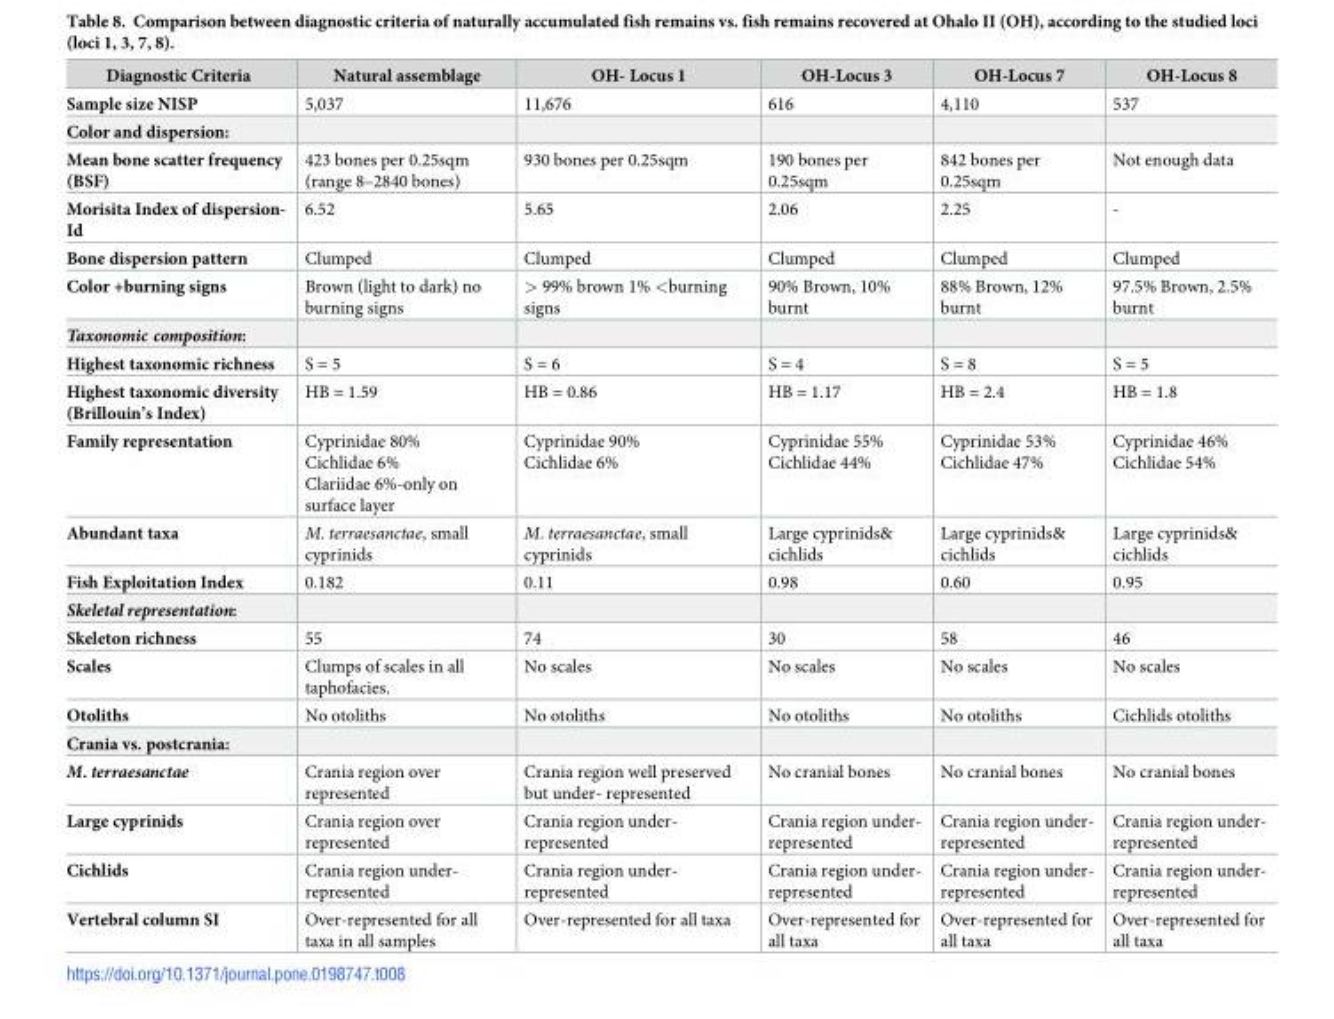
<table><thead><tr><td>Diagnostic Criteria</td><td>Natural assemblage</td><td>OH- Locus 1</td><td>OH-Locus 3</td><td>OH-Locus 7</td><td>OH-Locus 8</td></tr></thead><tbody><tr><td>Sample size NISP</td><td>5,037</td><td>11,676</td><td>616</td><td>4,110</td><td>537</td></tr><tr><td colspan="6">Color and dispersion:</td></tr><tr><td>Mean bone scatter frequency (BSF)</td><td>423 bones per 0.25sqm (range 8–2840 bones)</td><td>930 bones per 0.25sqm</td><td>190 bones per 0.25sqm</td><td>842 bones per 0.25sqm</td><td>Not enough data</td></tr><tr><td>Morisita Index of dispersion- Id</td><td>6.52</td><td>5.65</td><td>2.06</td><td>2.25</td><td>-</td></tr><tr><td>Bone dispersion pattern</td><td>Clumped</td><td>Clumped</td><td>Clumped</td><td>Clumped</td><td>Clumped</td></tr><tr><td>Color +burning signs</td><td>Brown (light to dark) no burning signs</td><td>&gt; 99% brown 1% &lt;burning signs</td><td>90% Brown, 10% burnt</td><td>88% Brown, 12% burnt</td><td>97.5% Brown, 2.5% burnt</td></tr><tr><td colspan="6">Taxonomic composition:</td></tr><tr><td>Highest taxonomic richness</td><td>S = 5</td><td>S = 6</td><td>S = 4</td><td>S = 8</td><td>S = 5</td></tr><tr><td>Highest taxonomic diversity (Brillouin’s Index)</td><td>HB = 1.59</td><td>HB = 0.86</td><td>HB = 1.17</td><td>HB = 2.4</td><td>HB = 1.8</td></tr><tr><td>Family representation</td><td>Cyprinidae 80% Cichlidae 6% Clariidae 6%-only on surface layer</td><td>Cyprinidae 90% Cichlidae 6%</td><td>Cyprinidae 55% Cichlidae 44%</td><td>Cyprinidae 53% Cichlidae 47%</td><td>Cyprinidae 46% Cichlidae 54%</td></tr><tr><td>Abundant taxa</td><td>M. terraesanctae, small cyprinids</td><td>M. terraesanctae, small cyprinids</td><td>Large cyprinids&amp; cichlids</td><td>Large cyprinids&amp; cichlids</td><td>Large cyprinids&amp; cichlids</td></tr><tr><td>Fish Exploitation Index</td><td>0.182</td><td>0.11</td><td>0.98</td><td>0.60</td><td>0.95</td></tr><tr><td colspan="6">Skeletal representation:</td></tr><tr><td>Skeleton richness</td><td>55</td><td>74</td><td>30</td><td>58</td><td>46</td></tr><tr><td>Scales</td><td>Clumps of scales in all taphofacies.</td><td>No scales</td><td>No scales</td><td>No scales</td><td>No scales</td></tr><tr><td>Otoliths</td><td>No otoliths</td><td>No otoliths</td><td>No otoliths</td><td>No otoliths</td><td>Cichlids otoliths</td></tr><tr><td colspan="6">Crania vs. postcrania:</td></tr><tr><td>M. terraesanctae</td><td>Crania region over represented</td><td>Crania region well preserved but under- represented</td><td>No cranial bones</td><td>No cranial bones</td><td>No cranial bones</td></tr><tr><td>Large cyprinids</td><td>Crania region over represented</td><td>Crania region under- represented</td><td>Crania region under- represented</td><td>Crania region under- represented</td><td>Crania region under- represented</td></tr><tr><td>Cichlids</td><td>Crania region under- represented</td><td>Crania region under- represented</td><td>Crania region under- represented</td><td>Crania region under- represented</td><td>Crania region under- represented</td></tr><tr><td>Vertebral column SI</td><td>Over-represented for all taxa in all samples</td><td>Over-represented for all taxa</td><td>Over-represented for all taxa</td><td>Over-represented for all taxa</td><td>Over-represented for all taxa</td></tr></tbody></table>